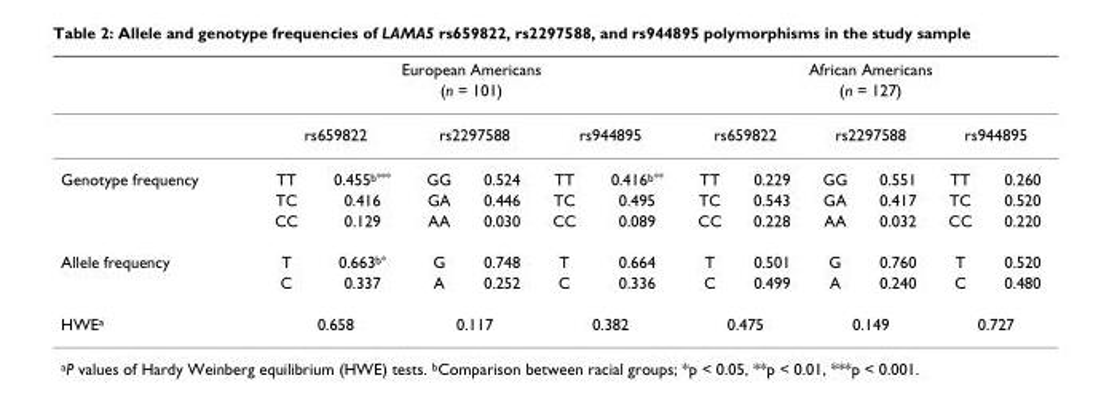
<table><thead><tr><td rowspan="4">Genotype frequency</td><td rowspan="2" colspan="6">European Americans (n = 101)</td><td rowspan="2" colspan="6">African Americans (n = 127)</td></tr><tr></tr><tr><td colspan="2">rs659822</td><td colspan="2">rs2297588</td><td colspan="2">rs944895</td><td colspan="2">rs659822</td><td colspan="2">rs2297588</td><td colspan="2">rs944895</td></tr><tr><td>TT</td><td>0.455<sup>b***</sup></td><td>GG</td><td>0.524</td><td>TT</td><td>0.416<sup>b**</sup></td><td>TT</td><td>0.229</td><td>GG</td><td>0.551</td><td>TT</td><td>0.260</td></tr></thead><tbody><tr><td></td><td>TC</td><td>0.416</td><td>GA</td><td>0.446</td><td>TC</td><td>0.495</td><td>TC</td><td>0.543</td><td>GA</td><td>0.417</td><td>TC</td><td>0.520</td></tr><tr><td></td><td>CC</td><td>0.129</td><td>AA</td><td>0.030</td><td>CC</td><td>0.089</td><td>CC</td><td>0.228</td><td>AA</td><td>0.032</td><td>CC</td><td>0.220</td></tr><tr><td rowspan="2">Allele frequency</td><td>T</td><td>0.663<sup>b*</sup></td><td>G</td><td>0.748</td><td>T</td><td>0.664</td><td>T</td><td>0.501</td><td>G</td><td>0.760</td><td>T</td><td>0.520</td></tr><tr><td>C</td><td>0.337</td><td>A</td><td>0.252</td><td>C</td><td>0.336</td><td>C</td><td>0.499</td><td>A</td><td>0.240</td><td>C</td><td>0.480</td></tr><tr><td>HWE<sup>a</sup></td><td colspan="2">0.658</td><td colspan="2">0.117</td><td colspan="2">0.382</td><td colspan="2">0.475</td><td colspan="2">0.149</td><td colspan="2">0.727</td></tr></tbody></table>